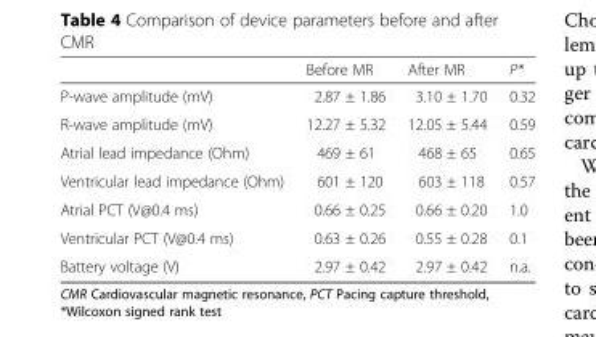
<table><thead><tr><td></td><td>Before MR</td><td>After MR</td><td>P*</td></tr></thead><tbody><tr><td>P-wave amplitude (mV)</td><td>2.87 ± 1.86</td><td>3.10 ± 1.70</td><td>0.32</td></tr><tr><td>R-wave amplitude (mV)</td><td>12.27 ± 5.32</td><td>12.05 ± 5.44</td><td>0.59</td></tr><tr><td>Atrial lead impedance (Ohm)</td><td>469 ± 61</td><td>468 ± 65</td><td>0.65</td></tr><tr><td>Ventricular lead impedance (Ohm)</td><td>601 ± 120</td><td>603 ± 118</td><td>0.57</td></tr><tr><td>Atrial PCT (V@0.4 ms)</td><td>0.66 ± 0.25</td><td>0.66 ± 0.20</td><td>1.0</td></tr><tr><td>Ventricular PCT (V@0.4 ms)</td><td>0.63 ± 0.26</td><td>0.55 ± 0.28</td><td>0.1</td></tr><tr><td>Battery voltage (V)</td><td>2.97 ± 0.42</td><td>2.97 ± 0.42</td><td>n.a.</td></tr></tbody></table>